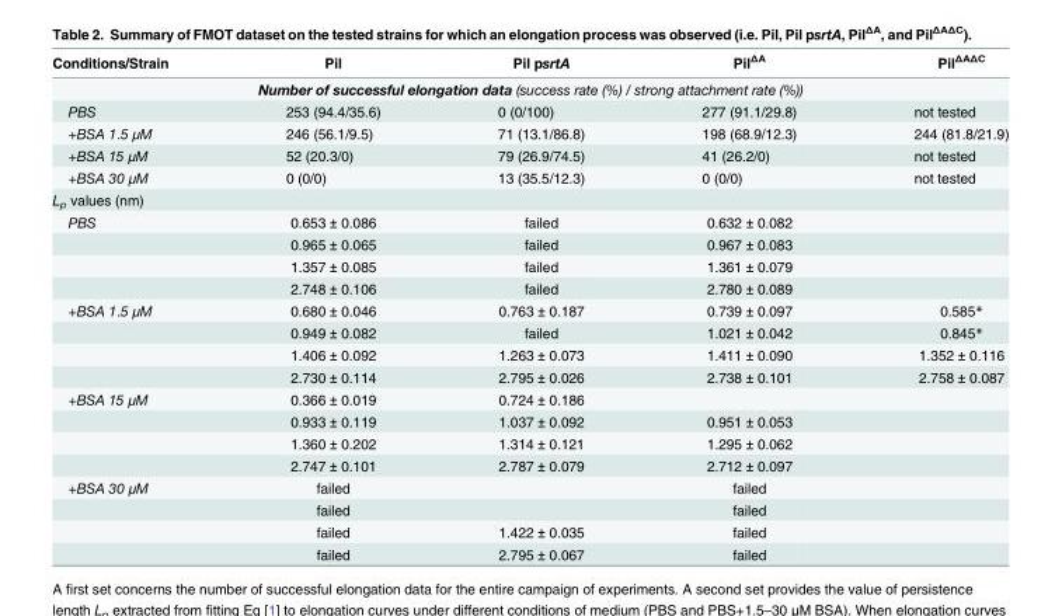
<table><thead><tr><td>Conditions/Strain</td><td>Pil</td><td>Pil psrtA</td><td>Pil<sup>ΔA</sup></td><td>Pil<sup>ΔAΔC</sup></td></tr></thead><tbody><tr><td colspan="5">Number of successful elongation data (success rate (%) / strong attachment rate (%))</td></tr><tr><td>PBS</td><td>253 (94.4/35.6)</td><td>0 (0/100)</td><td>277 (91.1/29.8)</td><td>not tested</td></tr><tr><td>+BSA 1.5 μM</td><td>246 (56.1/9.5)</td><td>71 (13.1/86.8)</td><td>198 (68.9/12.3)</td><td>244 (81.8/21.9)</td></tr><tr><td>+BSA 15 μM</td><td>52 (20.3/0)</td><td>79 (26.9/74.5)</td><td>41 (26.2/0)</td><td>not tested</td></tr><tr><td>+BSA 30 μM</td><td>0 (0/0)</td><td>13 (35.5/12.3)</td><td>0 (0/0)</td><td>not tested</td></tr><tr><td colspan="5">L<sub>p</sub> values (nm)</td></tr><tr><td rowspan="4">PBS</td><td>0.653 ± 0.086</td><td>failed</td><td>0.632 ± 0.082</td><td></td></tr><tr><td>0.965 ± 0.065</td><td>failed</td><td>0.967 ± 0.083</td><td></td></tr><tr><td>1.357 ± 0.085</td><td>failed</td><td>1.361 ± 0.079</td><td></td></tr><tr><td>2.748 ± 0.106</td><td>failed</td><td>2.780 ± 0.089</td><td></td></tr><tr><td rowspan="4">+BSA 1.5 μM</td><td>0.680 ± 0.046</td><td>0.763 ± 0.187</td><td>0.739 ± 0.097</td><td>0.585*</td></tr><tr><td>0.949 ± 0.082</td><td>failed</td><td>1.021 ± 0.042</td><td>0.845*</td></tr><tr><td>1.406 ± 0.092</td><td>1.263 ± 0.073</td><td>1.411 ± 0.090</td><td>1.352 ± 0.116</td></tr><tr><td>2.730 ± 0.114</td><td>2.795 ± 0.026</td><td>2.738 ± 0.101</td><td>2.758 ± 0.087</td></tr><tr><td rowspan="4">+BSA 15 μM</td><td>0.366 ± 0.019</td><td>0.724 ± 0.186</td><td></td><td></td></tr><tr><td>0.933 ± 0.119</td><td>1.037 ± 0.092</td><td>0.951 ± 0.053</td><td></td></tr><tr><td>1.360 ± 0.202</td><td>1.314 ± 0.121</td><td>1.295 ± 0.062</td><td></td></tr><tr><td>2.747 ± 0.101</td><td>2.787 ± 0.079</td><td>2.712 ± 0.097</td><td></td></tr><tr><td rowspan="4">+BSA 30 μM</td><td>failed</td><td></td><td>failed</td><td></td></tr><tr><td>failed</td><td></td><td>failed</td><td></td></tr><tr><td>failed</td><td>1.422 ± 0.035</td><td>failed</td><td></td></tr><tr><td>failed</td><td>2.795 ± 0.067</td><td>failed</td><td></td></tr></tbody></table>